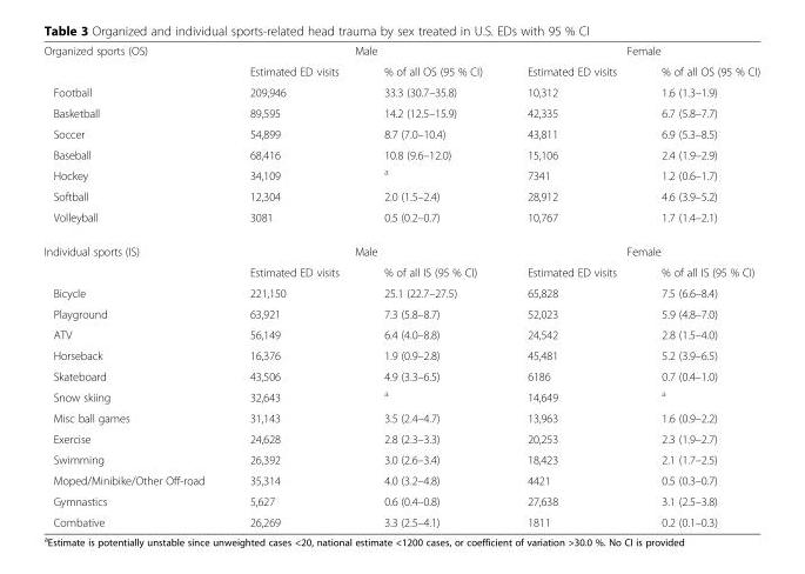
<table><tbody><tr><td rowspan="2">Organized sports (OS)</td><td colspan="2">Male</td><td colspan="2">Female</td></tr><tr><td>Estimated ED visits</td><td>% of all OS (95 % CI)</td><td>Estimated ED visits</td><td>% of all OS (95 % CI)</td></tr><tr><td>Football</td><td>209,946</td><td>33.3 (30.7–35.8)</td><td>10,312</td><td>1.6 (1.3–1.9)</td></tr><tr><td>Basketball</td><td>89,595</td><td>14.2 (12.5–15.9)</td><td>42,335</td><td>6.7 (5.8–7.7)</td></tr><tr><td>Soccer</td><td>54,899</td><td>8.7 (7.0–10.4)</td><td>43,811</td><td>6.9 (5.3–8.5)</td></tr><tr><td>Baseball</td><td>68,416</td><td>10.8 (9.6–12.0)</td><td>15,106</td><td>2.4 (1.9–2.9)</td></tr><tr><td>Hockey</td><td>34,109</td><td><sup>a</sup></td><td>7341</td><td>1.2 (0.6–1.7)</td></tr><tr><td>Softball</td><td>12,304</td><td>2.0 (1.5–2.4)</td><td>28,912</td><td>4.6 (3.9–5.2)</td></tr><tr><td>Volleyball</td><td>3081</td><td>0.5 (0.2–0.7)</td><td>10,767</td><td>1.7 (1.4–2.1)</td></tr><tr><td rowspan="2">Individual sports (IS)</td><td colspan="2">Male</td><td colspan="2">Female</td></tr><tr><td>Estimated ED visits</td><td>% of all IS (95 % CI)</td><td>Estimated ED visits</td><td>% of all IS (95 % CI)</td></tr><tr><td>Bicycle</td><td>221,150</td><td>25.1 (22.7–27.5)</td><td>65,828</td><td>7.5 (6.6–8.4)</td></tr><tr><td>Playground</td><td>63,921</td><td>7.3 (5.8–8.7)</td><td>52,023</td><td>5.9 (4.8–7.0)</td></tr><tr><td>ATV</td><td>56,149</td><td>6.4 (4.0–8.8)</td><td>24,542</td><td>2.8 (1.5–4.0)</td></tr><tr><td>Horseback</td><td>16,376</td><td>1.9 (0.9–2.8)</td><td>45,481</td><td>5.2 (3.9–6.5)</td></tr><tr><td>Skateboard</td><td>43,506</td><td>4.9 (3.3–6.5)</td><td>6186</td><td>0.7 (0.4–1.0)</td></tr><tr><td>Snow skiing</td><td>32,643</td><td><sup>a</sup></td><td>14,649</td><td><sup>a</sup></td></tr><tr><td>Misc ball games</td><td>31,143</td><td>3.5 (2.4–4.7)</td><td>13,963</td><td>1.6 (0.9–2.2)</td></tr><tr><td>Exercise</td><td>24,628</td><td>2.8 (2.3–3.3)</td><td>20,253</td><td>2.3 (1.9–2.7)</td></tr><tr><td>Swimming</td><td>26,392</td><td>3.0 (2.6–3.4)</td><td>18,423</td><td>2.1 (1.7–2.5)</td></tr><tr><td>Moped/Minibike/Other Off-road</td><td>35,314</td><td>4.0 (3.2–4.8)</td><td>4421</td><td>0.5 (0.3–0.7)</td></tr><tr><td>Gymnastics</td><td>5,627</td><td>0.6 (0.4–0.8)</td><td>27,638</td><td>3.1 (2.5–3.8)</td></tr><tr><td>Combative</td><td>26,269</td><td>3.3 (2.5–4.1)</td><td>1811</td><td>0.2 (0.1–0.3)</td></tr></tbody></table>